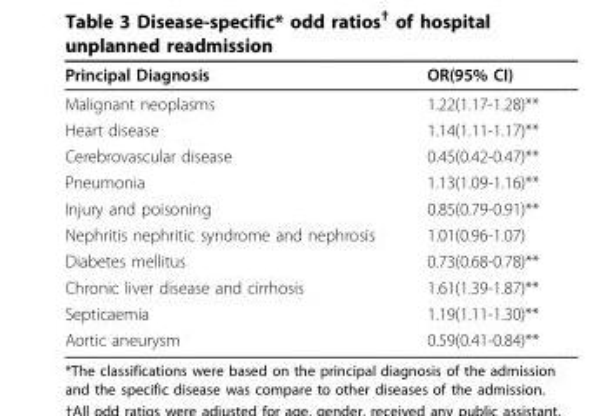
<table><thead><tr><td>Principal Diagnosis</td><td>OR(95% CI)</td></tr></thead><tbody><tr><td>Malignant neoplasms</td><td>1.22(1.17-1.28)**</td></tr><tr><td>Heart disease</td><td>1.14(1.11-1.17)**</td></tr><tr><td>Cerebrovascular disease</td><td>0.45(0.42-0.47)**</td></tr><tr><td>Pneumonia</td><td>1.13(1.09-1.16)**</td></tr><tr><td>Injury and poisoning</td><td>0.85(0.79-0.91)**</td></tr><tr><td>Nephritis nephritic syndrome and nephrosis</td><td>1.01(0.96-1.07)</td></tr><tr><td>Diabetes mellitus</td><td>0.73(0.68-0.78)**</td></tr><tr><td>Chronic liver disease and cirrhosis</td><td>1.61(1.39-1.87)**</td></tr><tr><td>Septicaemia</td><td>1.19(1.11-1.30)**</td></tr><tr><td>Aortic aneurysm</td><td>0.59(0.41-0.84)**</td></tr></tbody></table>